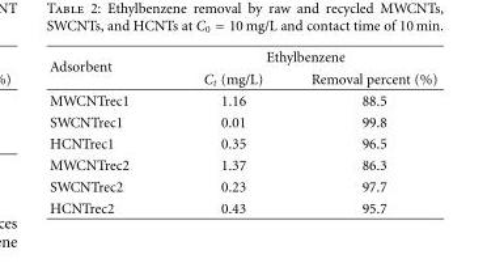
<table><thead><tr><td rowspan="2">Adsorbent</td><td colspan="2">Ethylbenzene</td></tr><tr><td>C<sub>t</sub> (mg/L)</td><td>Removal percent (%)</td></tr></thead><tbody><tr><td>MWCNTrec1</td><td>1.16</td><td>88.5</td></tr><tr><td>SWCNTrec1</td><td>0.01</td><td>99.8</td></tr><tr><td>HCNTrec1</td><td>0.35</td><td>96.5</td></tr><tr><td>MWCNTrec2</td><td>1.37</td><td>86.3</td></tr><tr><td>SWCNTrec2</td><td>0.23</td><td>97.7</td></tr><tr><td>HCNTrec2</td><td>0.43</td><td>95.7</td></tr></tbody></table>